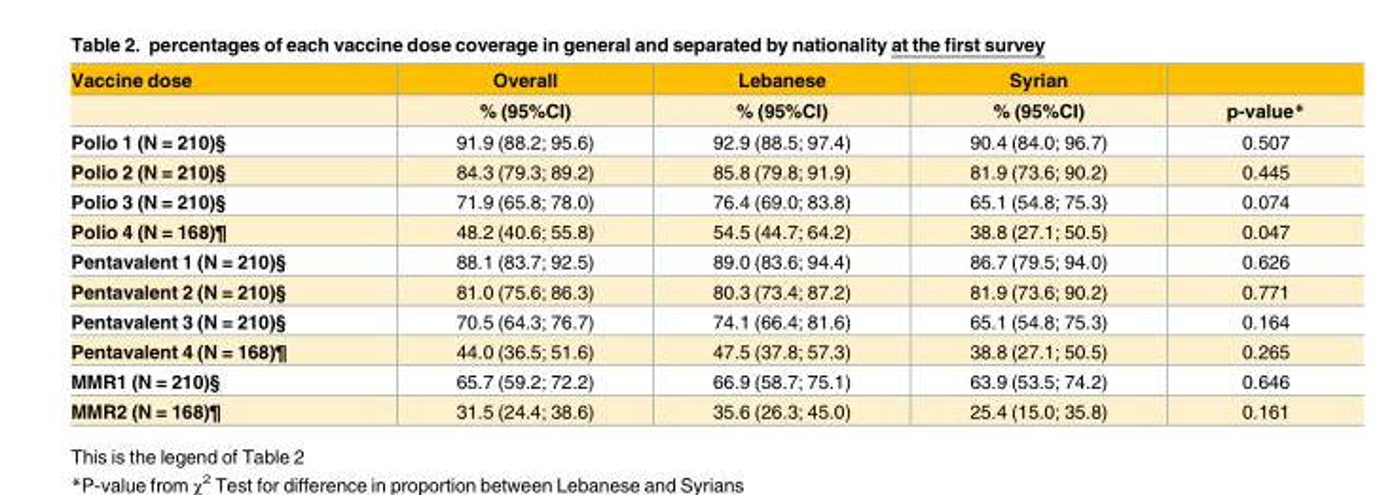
<table><thead><tr><td rowspan="2">Vaccine dose</td><td rowspan="2">Overall % (95%CI)</td><td rowspan="2">Lebanese % (95%CI)</td><td rowspan="2">Syrian % (95%CI)</td><td rowspan="2">p-value*</td></tr><tr></tr></thead><tbody><tr><td>Polio 1 (N = 210)§</td><td>91.9 (88.2; 95.6)</td><td>92.9 (88.5; 97.4)</td><td>90.4 (84.0; 96.7)</td><td>0.507</td></tr><tr><td>Polio 2 (N = 210)§</td><td>84.3 (79.3; 89.2)</td><td>85.8 (79.8; 91.9)</td><td>81.9 (73.6; 90.2)</td><td>0.445</td></tr><tr><td>Polio 3 (N = 210)§</td><td>71.9 (65.8; 78.0)</td><td>76.4 (69.0; 83.8)</td><td>65.1 (54.8; 75.3)</td><td>0.074</td></tr><tr><td>Polio 4 (N = 168)¶</td><td>48.2 (40.6; 55.8)</td><td>54.5 (44.7; 64.2)</td><td>38.8 (27.1; 50.5)</td><td>0.047</td></tr><tr><td>Pentavalent 1 (N = 210)§</td><td>88.1 (83.7; 92.5)</td><td>89.0 (83.6; 94.4)</td><td>86.7 (79.5; 94.0)</td><td>0.626</td></tr><tr><td>Pentavalent 2 (N = 210)§</td><td>81.0 (75.6; 86.3)</td><td>80.3 (73.4; 87.2)</td><td>81.9 (73.6; 90.2)</td><td>0.771</td></tr><tr><td>Pentavalent 3 (N = 210)§</td><td>70.5 (64.3; 76.7)</td><td>74.1 (66.4; 81.6)</td><td>65.1 (54.8; 75.3)</td><td>0.164</td></tr><tr><td>Pentavalent 4 (N = 168)¶</td><td>44.0 (36.5; 51.6)</td><td>47.5 (37.8; 57.3)</td><td>38.8 (27.1; 50.5)</td><td>0.265</td></tr><tr><td>MMR1 (N = 210)§</td><td>65.7 (59.2; 72.2)</td><td>66.9 (58.7; 75.1)</td><td>63.9 (53.5; 74.2)</td><td>0.646</td></tr><tr><td>MMR2 (N = 168)¶</td><td>31.5 (24.4; 38.6)</td><td>35.6 (26.3; 45.0)</td><td>25.4 (15.0; 35.8)</td><td>0.161</td></tr></tbody></table>